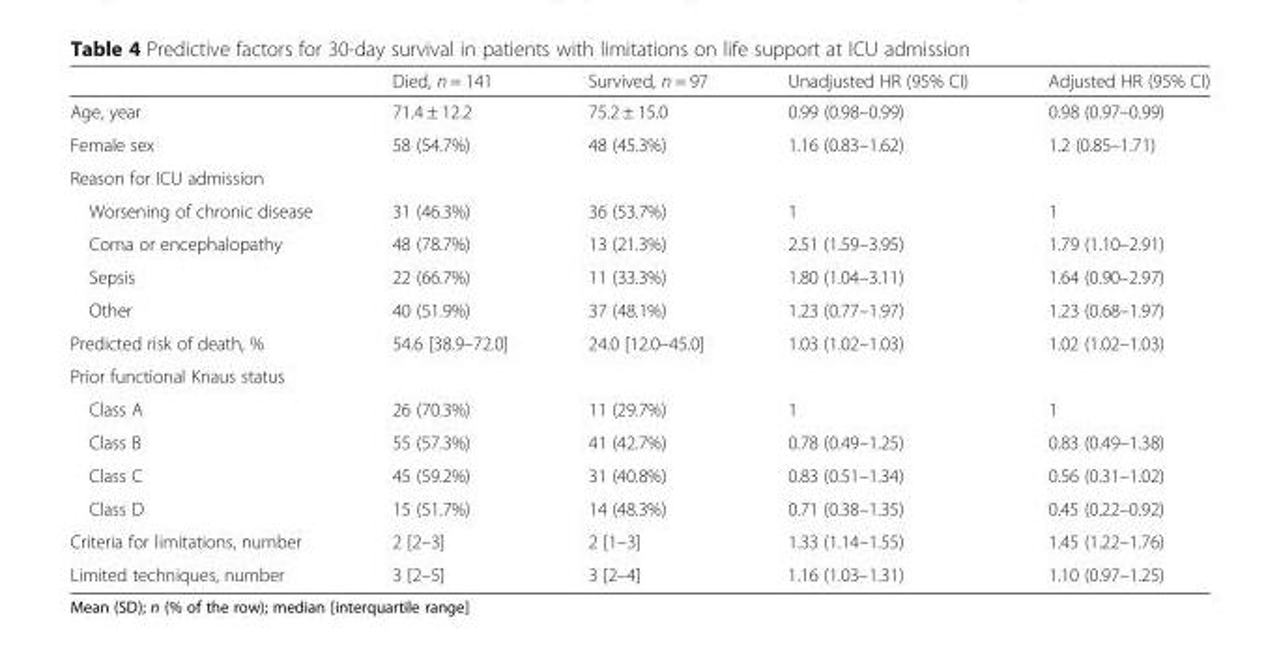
<table><thead><tr><td></td><td>Died, n = 141</td><td>Survived, n = 97</td><td>Unadjusted HR (95% CI)</td><td>Adjusted HR (95% CI)</td></tr></thead><tbody><tr><td>Age, year</td><td>71.4 ± 12.2</td><td>75.2 ± 15.0</td><td>0.99 (0.98–0.99)</td><td>0.98 (0.97–0.99)</td></tr><tr><td>Female sex</td><td>58 (54.7%)</td><td>48 (45.3%)</td><td>1.16 (0.83–1.62)</td><td>1.2 (0.85–1.71)</td></tr><tr><td colspan="5">Reason for ICU admission</td></tr><tr><td>Worsening of chronic disease</td><td>31 (46.3%)</td><td>36 (53.7%)</td><td>1</td><td>1</td></tr><tr><td>Coma or encephalopathy</td><td>48 (78.7%)</td><td>13 (21.3%)</td><td>2.51 (1.59–3.95)</td><td>1.79 (1.10–2.91)</td></tr><tr><td>Sepsis</td><td>22 (66.7%)</td><td>11 (33.3%)</td><td>1.80 (1.04–3.11)</td><td>1.64 (0.90–2.97)</td></tr><tr><td>Other</td><td>40 (51.9%)</td><td>37 (48.1%)</td><td>1.23 (0.77–1.97)</td><td>1.23 (0.68–1.97)</td></tr><tr><td>Predicted risk of death, %</td><td>54.6 [38.9–72.0]</td><td>24.0 [12.0–45.0]</td><td>1.03 (1.02–1.03)</td><td>1.02 (1.02–1.03)</td></tr><tr><td colspan="5">Prior functional Knaus status</td></tr><tr><td>Class A</td><td>26 (70.3%)</td><td>11 (29.7%)</td><td>1</td><td>1</td></tr><tr><td>Class B</td><td>55 (57.3%)</td><td>41 (42.7%)</td><td>0.78 (0.49–1.25)</td><td>0.83 (0.49–1.38)</td></tr><tr><td>Class C</td><td>45 (59.2%)</td><td>31 (40.8%)</td><td>0.83 (0.51–1.34)</td><td>0.56 (0.31–1.02)</td></tr><tr><td>Class D</td><td>15 (51.7%)</td><td>14 (48.3%)</td><td>0.71 (0.38–1.35)</td><td>0.45 (0.22–0.92)</td></tr><tr><td>Criteria for limitations, number</td><td>2 [2–3]</td><td>2 [1–3]</td><td>1.33 (1.14–1.55)</td><td>1.45 (1.22–1.76)</td></tr><tr><td>Limited techniques, number</td><td>3 [2–5]</td><td>3 [2–4]</td><td>1.16 (1.03–1.31)</td><td>1.10 (0.97–1.25)</td></tr></tbody></table>